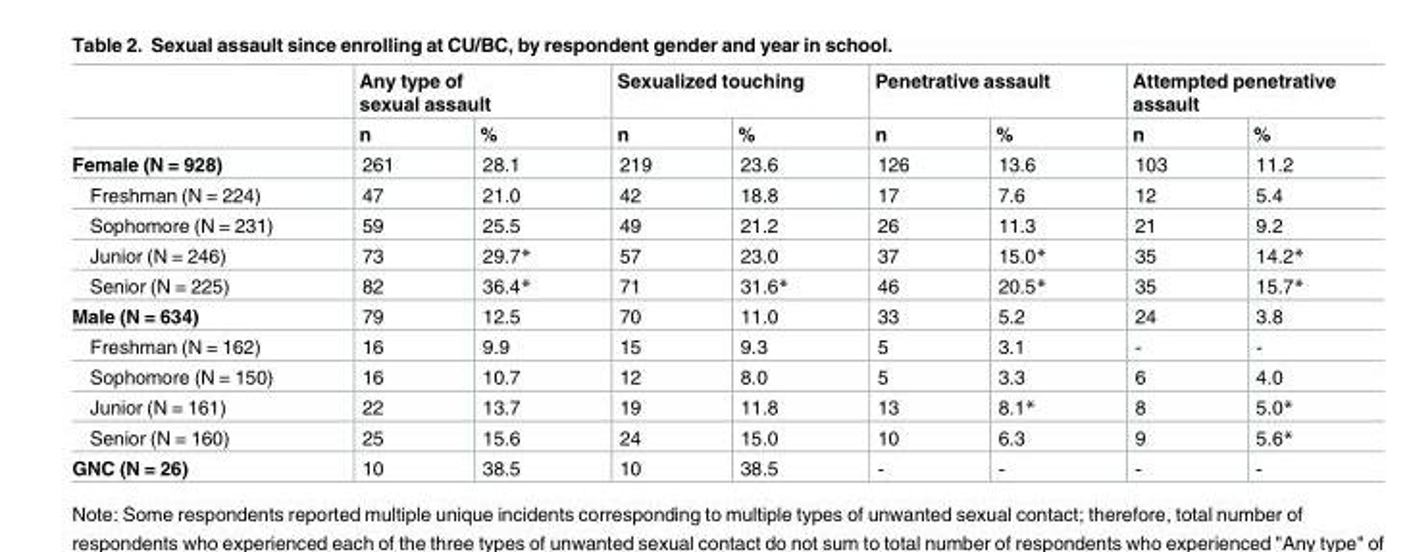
<table><thead><tr><td rowspan="2"></td><td colspan="2">Any type of sexual assault</td><td colspan="2">Sexualized touching</td><td colspan="2">Penetrative assault</td><td colspan="2">Attempted penetrative assault</td></tr><tr><td>n</td><td>%</td><td>n</td><td>%</td><td>n</td><td>%</td><td>n</td><td>%</td></tr></thead><tbody><tr><td>Female (N = 928)</td><td>261</td><td>28.1</td><td>219</td><td>23.6</td><td>126</td><td>13.6</td><td>103</td><td>11.2</td></tr><tr><td>Freshman (N = 224)</td><td>47</td><td>21.0</td><td>42</td><td>18.8</td><td>17</td><td>7.6</td><td>12</td><td>5.4</td></tr><tr><td>Sophomore (N = 231)</td><td>59</td><td>25.5</td><td>49</td><td>21.2</td><td>26</td><td>11.3</td><td>21</td><td>9.2</td></tr><tr><td>Junior (N = 246)</td><td>73</td><td>29.7*</td><td>57</td><td>23.0</td><td>37</td><td>15.0*</td><td>35</td><td>14.2*</td></tr><tr><td>Senior (N = 225)</td><td>82</td><td>36.4*</td><td>71</td><td>31.6*</td><td>46</td><td>20.5*</td><td>35</td><td>15.7*</td></tr><tr><td>Male (N = 634)</td><td>79</td><td>12.5</td><td>70</td><td>11.0</td><td>33</td><td>5.2</td><td>24</td><td>3.8</td></tr><tr><td>Freshman (N = 162)</td><td>16</td><td>9.9</td><td>15</td><td>9.3</td><td>5</td><td>3.1</td><td>-</td><td>-</td></tr><tr><td>Sophomore (N = 150)</td><td>16</td><td>10.7</td><td>12</td><td>8.0</td><td>5</td><td>3.3</td><td>6</td><td>4.0</td></tr><tr><td>Junior (N = 161)</td><td>22</td><td>13.7</td><td>19</td><td>11.8</td><td>13</td><td>8.1*</td><td>8</td><td>5.0*</td></tr><tr><td>Senior (N = 160)</td><td>25</td><td>15.6</td><td>24</td><td>15.0</td><td>10</td><td>6.3</td><td>9</td><td>5.6*</td></tr><tr><td>GNC (N = 26)</td><td>10</td><td>38.5</td><td>10</td><td>38.5</td><td>-</td><td>-</td><td>-</td><td>-</td></tr></tbody></table>